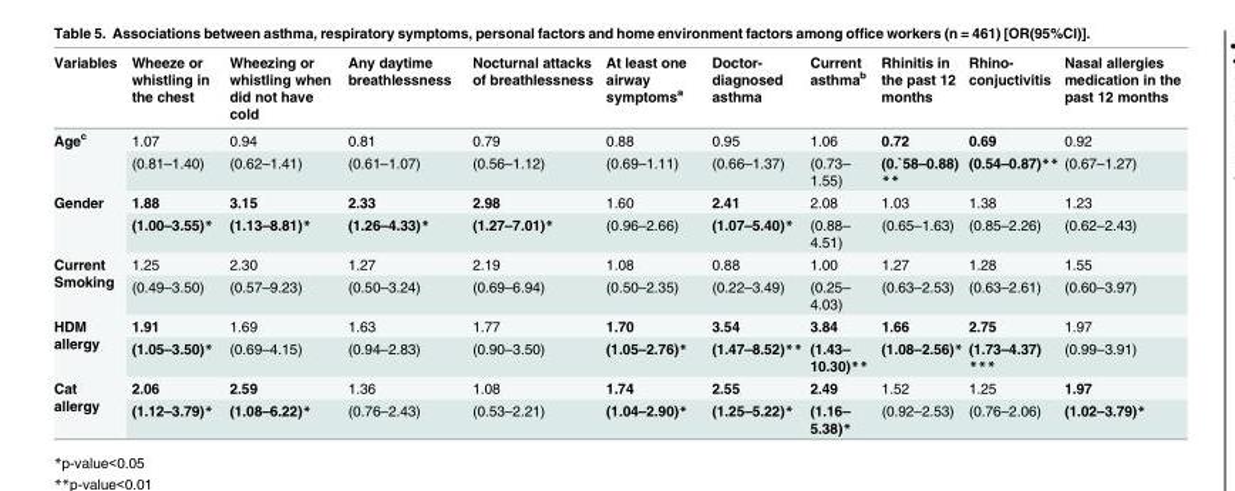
<table><thead><tr><td>Variables</td><td>Wheeze or whistling in the chest</td><td>Wheezing or whistling when did not have cold</td><td>Any daytime breathlessness</td><td>Nocturnal attacks of breathlessness</td><td>At least one airway symptoms<sup>a</sup></td><td>Doctor- diagnosed asthma</td><td>Current asthma<sup>b</sup></td><td>Rhinitis in the past 12 months</td><td>Rhino- conjuctivitis</td><td>Nasal allergies medication in the past 12 months</td></tr></thead><tbody><tr><td rowspan="2">Age<sup>c</sup></td><td>1.07</td><td>0.94</td><td>0.81</td><td>0.79</td><td>0.88</td><td>0.95</td><td>1.06</td><td>0.72</td><td>0.69</td><td>0.92</td></tr><tr><td>(0.81–1.40)</td><td>(0.62–1.41)</td><td>(0.61–1.07)</td><td>(0.56–1.12)</td><td>(0.69–1.11)</td><td>(0.66–1.37)</td><td>(0.73– 1.55)</td><td>(0.`58–0.88) **</td><td>(0.54–0.87)**</td><td>(0.67–1.27)</td></tr><tr><td rowspan="2">Gender</td><td>1.88</td><td>3.15</td><td>2.33</td><td>2.98</td><td>1.60</td><td>2.41</td><td>2.08</td><td>1.03</td><td>1.38</td><td>1.23</td></tr><tr><td>(1.00–3.55)*</td><td>(1.13–8.81)*</td><td>(1.26–4.33)*</td><td>(1.27–7.01)*</td><td>(0.96–2.66)</td><td>(1.07–5.40)*</td><td>(0.88– 4.51)</td><td>(0.65–1.63)</td><td>(0.85–2.26)</td><td>(0.62–2.43)</td></tr><tr><td rowspan="2">Current Smoking</td><td>1.25</td><td>2.30</td><td>1.27</td><td>2.19</td><td>1.08</td><td>0.88</td><td>1.00</td><td>1.27</td><td>1.28</td><td>1.55</td></tr><tr><td>(0.49–3.50)</td><td>(0.57–9.23)</td><td>(0.50–3.24)</td><td>(0.69–6.94)</td><td>(0.50–2.35)</td><td>(0.22–3.49)</td><td>(0.25– 4.03)</td><td>(0.63–2.53)</td><td>(0.63–2.61)</td><td>(0.60–3.97)</td></tr><tr><td rowspan="2">HDM allergy</td><td>1.91</td><td>1.69</td><td>1.63</td><td>1.77</td><td>1.70</td><td>3.54</td><td>3.84</td><td>1.66</td><td>2.75</td><td>1.97</td></tr><tr><td>(1.05–3.50)*</td><td>(0.69–4.15)</td><td>(0.94–2.83)</td><td>(0.90–3.50)</td><td>(1.05–2.76)*</td><td>(1.47–8.52)**</td><td>(1.43– 10.30)**</td><td>(1.08–2.56)*</td><td>(1.73–4.37) ***</td><td>(0.99–3.91)</td></tr><tr><td rowspan="2">Cat allergy</td><td>2.06</td><td>2.59</td><td>1.36</td><td>1.08</td><td>1.74</td><td>2.55</td><td>2.49</td><td>1.52</td><td>1.25</td><td>1.97</td></tr><tr><td>(1.12–3.79)*</td><td>(1.08–6.22)*</td><td>(0.76–2.43)</td><td>(0.53–2.21)</td><td>(1.04–2.90)*</td><td>(1.25–5.22)*</td><td>(1.16– 5.38)*</td><td>(0.92–2.53)</td><td>(0.76–2.06)</td><td>(1.02–3.79)*</td></tr></tbody></table>